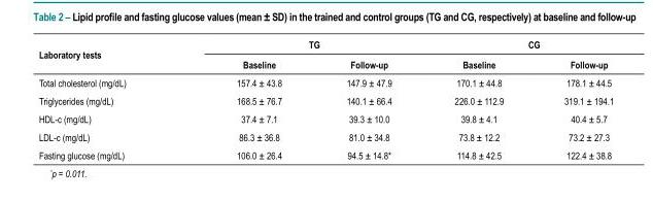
<table><thead><tr><td rowspan="2">Laboratory tests</td><td colspan="2">TG</td><td colspan="2">CG</td></tr><tr><td>Baseline</td><td>Follow-up</td><td>Baseline</td><td>Follow-up</td></tr></thead><tbody><tr><td>Total cholesterol (mg/dL)</td><td>157.4 ± 43.8</td><td>147.9 ± 47.9</td><td>170.1 ± 44.8</td><td>178.1 ± 44.5</td></tr><tr><td>Triglycerides (mg/dL)</td><td>168.5 ± 76.7</td><td>140.1 ± 66.4</td><td>226.0 ± 112.9</td><td>319.1 ± 194.1</td></tr><tr><td>HDL-c (mg/dL)</td><td>37.4 ± 7.1</td><td>39.3 ± 10.0</td><td>39.8 ± 4.1</td><td>40.4 ± 5.7</td></tr><tr><td>LDL-c (mg/dL)</td><td>86.3 ± 36.8</td><td>81.0 ± 34.8</td><td>73.8 ± 12.2</td><td>73.2 ± 27.3</td></tr><tr><td>Fasting glucose (mg/dL)</td><td>106.0 ± 26.4</td><td>94.5 ± 14.8*</td><td>114.8 ± 42.5</td><td>122.4 ± 38.8</td></tr></tbody></table>